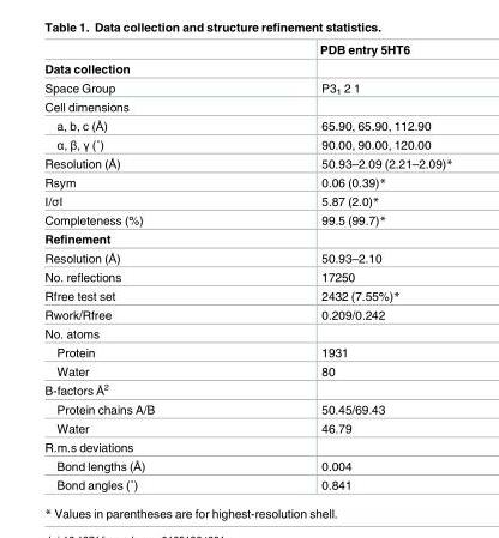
<table><thead><tr><td></td><td>PDB entry 5HT6</td></tr></thead><tbody><tr><td colspan="2">Data collection</td></tr><tr><td>Space Group</td><td>P3<sub>1</sub> 2 1</td></tr><tr><td colspan="2">Cell dimensions</td></tr><tr><td>a, b, c (Å)</td><td>65.90, 65.90, 112.90</td></tr><tr><td>α, β, γ (˚)</td><td>90.00, 90.00, 120.00</td></tr><tr><td>Resolution (Å)</td><td>50.93–2.09 (2.21–2.09)*</td></tr><tr><td>Rsym</td><td>0.06 (0.39)*</td></tr><tr><td>I/σI</td><td>5.87 (2.0)*</td></tr><tr><td>Completeness (%)</td><td>99.5 (99.7)*</td></tr><tr><td colspan="2">Refinement</td></tr><tr><td>Resolution (Å)</td><td>50.93–2.10</td></tr><tr><td>No. reflections</td><td>17250</td></tr><tr><td>Rfree test set</td><td>2432 (7.55%)*</td></tr><tr><td>Rwork/Rfree</td><td>0.209/0.242</td></tr><tr><td colspan="2">No. atoms</td></tr><tr><td>Protein</td><td>1931</td></tr><tr><td>Water</td><td>80</td></tr><tr><td colspan="2">B-factors Å<sup>2</sup></td></tr><tr><td>Protein chains A/B</td><td>50.45/69.43</td></tr><tr><td>Water</td><td>46.79</td></tr><tr><td colspan="2">R.m.s deviations</td></tr><tr><td>Bond lengths (Å)</td><td>0.004</td></tr><tr><td>Bond angles (˚)</td><td>0.841</td></tr></tbody></table>